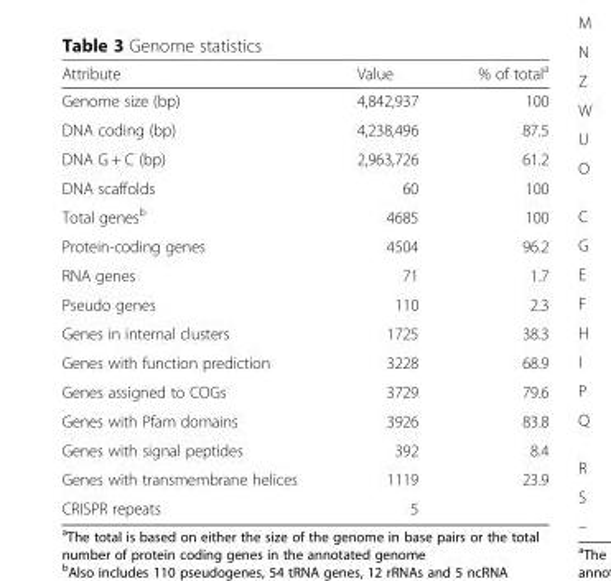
<table><thead><tr><td>Attribute</td><td>Value</td><td>% of total<sup>a</sup></td></tr></thead><tbody><tr><td>Genome size (bp)</td><td>4,842,937</td><td>100</td></tr><tr><td>DNA coding (bp)</td><td>4,238,496</td><td>87.5</td></tr><tr><td>DNA G + C (bp)</td><td>2,963,726</td><td>61.2</td></tr><tr><td>DNA scaffolds</td><td>60</td><td>100</td></tr><tr><td>Total genes<sup>b</sup></td><td>4685</td><td>100</td></tr><tr><td>Protein-coding genes</td><td>4504</td><td>96.2</td></tr><tr><td>RNA genes</td><td>71</td><td>1.7</td></tr><tr><td>Pseudo genes</td><td>110</td><td>2.3</td></tr><tr><td>Genes in internal clusters</td><td>1725</td><td>38.3</td></tr><tr><td>Genes with function prediction</td><td>3228</td><td>68.9</td></tr><tr><td>Genes assigned to COGs</td><td>3729</td><td>79.6</td></tr><tr><td>Genes with Pfam domains</td><td>3926</td><td>83.8</td></tr><tr><td>Genes with signal peptides</td><td>392</td><td>8.4</td></tr><tr><td>Genes with transmembrane helices</td><td>1119</td><td>23.9</td></tr><tr><td>CRISPR repeats</td><td>5</td><td></td></tr></tbody></table>